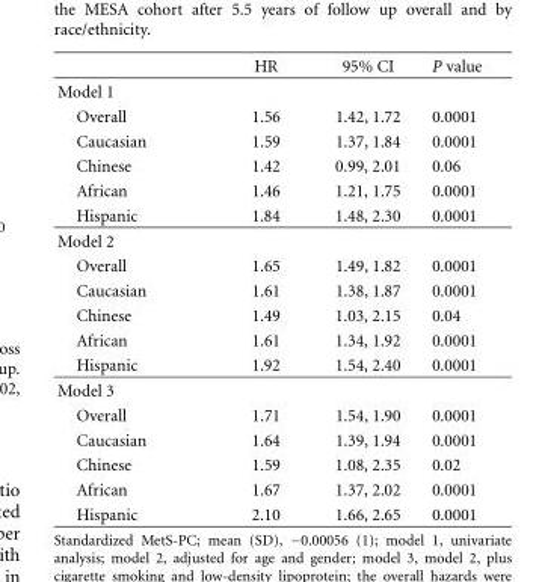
<table><thead><tr><td></td><td>HR</td><td>95% CI</td><td>P value</td></tr></thead><tbody><tr><td colspan="4">Model 1</td></tr><tr><td>Overall</td><td>1.56</td><td>1.42, 1.72</td><td>0.0001</td></tr><tr><td>Caucasian</td><td>1.59</td><td>1.37, 1.84</td><td>0.0001</td></tr><tr><td>Chinese</td><td>1.42</td><td>0.99, 2.01</td><td>0.06</td></tr><tr><td>African</td><td>1.46</td><td>1.21, 1.75</td><td>0.0001</td></tr><tr><td>Hispanic</td><td>1.84</td><td>1.48, 2.30</td><td>0.0001</td></tr><tr><td colspan="4">Model 2</td></tr><tr><td>Overall</td><td>1.65</td><td>1.49, 1.82</td><td>0.0001</td></tr><tr><td>Caucasian</td><td>1.61</td><td>1.38, 1.87</td><td>0.0001</td></tr><tr><td>Chinese</td><td>1.49</td><td>1.03, 2.15</td><td>0.04</td></tr><tr><td>African</td><td>1.61</td><td>1.34, 1.92</td><td>0.0001</td></tr><tr><td>Hispanic</td><td>1.92</td><td>1.54, 2.40</td><td>0.0001</td></tr><tr><td colspan="4">Model 3</td></tr><tr><td>Overall</td><td>1.71</td><td>1.54, 1.90</td><td>0.0001</td></tr><tr><td>Caucasian</td><td>1.64</td><td>1.39, 1.94</td><td>0.0001</td></tr><tr><td>Chinese</td><td>1.59</td><td>1.08, 2.35</td><td>0.02</td></tr><tr><td>African</td><td>1.67</td><td>1.37, 2.02</td><td>0.0001</td></tr><tr><td>Hispanic</td><td>2.10</td><td>1.66, 2.65</td><td>0.0001</td></tr></tbody></table>